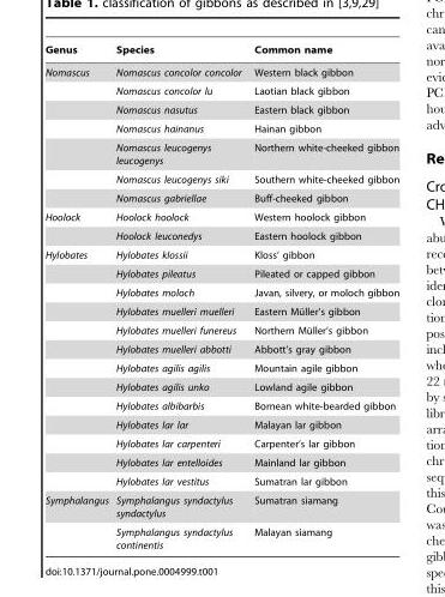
<table><thead><tr><td>Genus</td><td>Species</td><td>Common name</td></tr></thead><tbody><tr><td rowspan="7">Nomascus</td><td>Nomascus concolor concolor</td><td>Western black gibbon</td></tr><tr><td>Nomascus concolor lu</td><td>Laotian black gibbon</td></tr><tr><td>Nomascus nasutus</td><td>Eastern black gibbon</td></tr><tr><td>Nomascus hainanus</td><td>Hainan gibbon</td></tr><tr><td>Nomascus leucogenys leucogenys</td><td>Northern white-cheeked gibbon</td></tr><tr><td>Nomascus leucogenys siki</td><td>Southern white-cheeked gibbon</td></tr><tr><td>Nomascus gabriellae</td><td>Buff-cheeked gibbon</td></tr><tr><td rowspan="2">Hoolock</td><td>Hoolock hoolock</td><td>Western hoolock gibbon</td></tr><tr><td>Hoolock leuconedys</td><td>Eastern hoolock gibbon</td></tr><tr><td rowspan="13">Hylobates</td><td>Hylobates klossii</td><td>Kloss’ gibbon</td></tr><tr><td>Hylobates pileatus</td><td>Pileated or capped gibbon</td></tr><tr><td>Hylobates moloch</td><td>Javan, silvery, or moloch gibbon</td></tr><tr><td>Hylobates muelleri muelleri</td><td>Eastern Mu¨ller’s gibbon</td></tr><tr><td>Hylobates muelleri funereus</td><td>Northern Mu¨ller’s gibbon</td></tr><tr><td>Hylobates muelleri abbotti</td><td>Abbott’s gray gibbon</td></tr><tr><td>Hylobates agilis agilis</td><td>Mountain agile gibbon</td></tr><tr><td>Hylobates agilis unko</td><td>Lowland agile gibbon</td></tr><tr><td>Hylobates albibarbis</td><td>Bornean white-bearded gibbon</td></tr><tr><td>Hylobates lar lar</td><td>Malayan lar gibbon</td></tr><tr><td>Hylobates lar carpenteri</td><td>Carpenter’s lar gibbon</td></tr><tr><td>Hylobates lar entelloides</td><td>Mainland lar gibbon</td></tr><tr><td>Hylobates lar vestitus</td><td>Sumatran lar gibbon</td></tr><tr><td rowspan="2">Symphalangus</td><td>Symphalangus syndactylus syndactylus</td><td>Sumatran siamang</td></tr><tr><td>Symphalangus syndactylus continentis</td><td>Malayan siamang</td></tr></tbody></table>